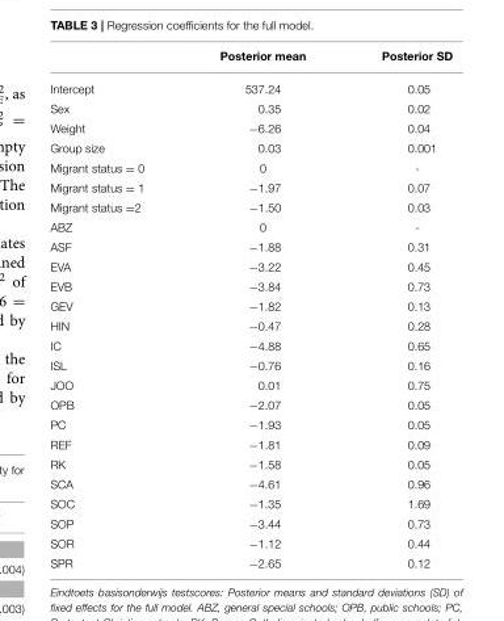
<table><thead><tr><td></td><td>Posterior mean</td><td>Posterior SD</td></tr></thead><tbody><tr><td>Intercept</td><td>537.24</td><td>0.05</td></tr><tr><td>Sex</td><td>0.35</td><td>0.02</td></tr><tr><td>Weight</td><td>−6.26</td><td>0.04</td></tr><tr><td>Group size</td><td>0.03</td><td>0.001</td></tr><tr><td>Migrant status = 0</td><td>0</td><td>-</td></tr><tr><td>Migrant status = 1</td><td>−1.97</td><td>0.07</td></tr><tr><td>Migrant status =2</td><td>−1.50</td><td>0.03</td></tr><tr><td>ABZ</td><td>0</td><td>-</td></tr><tr><td>ASF</td><td>−1.88</td><td>0.31</td></tr><tr><td>EVA</td><td>−3.22</td><td>0.45</td></tr><tr><td>EVB</td><td>−3.84</td><td>0.73</td></tr><tr><td>GEV</td><td>−1.82</td><td>0.13</td></tr><tr><td>HIN</td><td>−0.47</td><td>0.28</td></tr><tr><td>IC</td><td>−4.88</td><td>0.65</td></tr><tr><td>ISL</td><td>−0.76</td><td>0.16</td></tr><tr><td>JOO</td><td>0.01</td><td>0.75</td></tr><tr><td>OPB</td><td>−2.07</td><td>0.05</td></tr><tr><td>PC</td><td>−1.93</td><td>0.05</td></tr><tr><td>REF</td><td>−1.81</td><td>0.09</td></tr><tr><td>RK</td><td>−1.58</td><td>0.05</td></tr><tr><td>SCA</td><td>−4.61</td><td>0.96</td></tr><tr><td>SOC</td><td>−1.35</td><td>1.69</td></tr><tr><td>SOP</td><td>−3.44</td><td>0.73</td></tr><tr><td>SOR</td><td>−1.12</td><td>0.44</td></tr><tr><td>SPR</td><td>−2.65</td><td>0.12</td></tr></tbody></table>